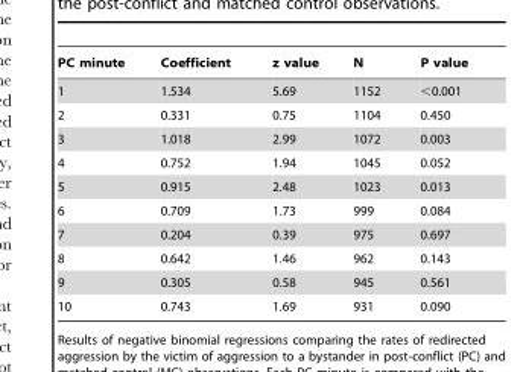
<table><thead><tr><td>PC minute</td><td>Coefficient</td><td>z value</td><td>N</td><td>P value</td></tr></thead><tbody><tr><td>1</td><td>1.534</td><td>5.69</td><td>1152</td><td>&lt;0.001</td></tr><tr><td>2</td><td>0.331</td><td>0.75</td><td>1104</td><td>0.450</td></tr><tr><td>3</td><td>1.018</td><td>2.99</td><td>1072</td><td>0.003</td></tr><tr><td>4</td><td>0.752</td><td>1.94</td><td>1045</td><td>0.052</td></tr><tr><td>5</td><td>0.915</td><td>2.48</td><td>1023</td><td>0.013</td></tr><tr><td>6</td><td>0.709</td><td>1.73</td><td>999</td><td>0.084</td></tr><tr><td>7</td><td>0.204</td><td>0.39</td><td>975</td><td>0.697</td></tr><tr><td>8</td><td>0.642</td><td>1.46</td><td>962</td><td>0.143</td></tr><tr><td>9</td><td>0.305</td><td>0.58</td><td>945</td><td>0.561</td></tr><tr><td>10</td><td>0.743</td><td>1.69</td><td>931</td><td>0.090</td></tr></tbody></table>